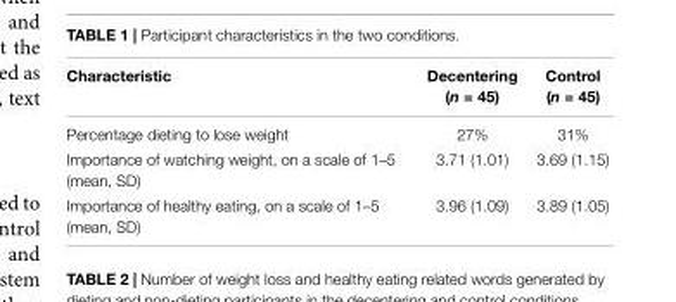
<table><thead><tr><td>Characteristic</td><td>Decentering (n = 45)</td><td>Control (n = 45)</td></tr></thead><tbody><tr><td>Percentage dieting to lose weight</td><td>27%</td><td>31%</td></tr><tr><td>Importance of watching weight, on a scale of 1–5 (mean, SD)</td><td>3.71 (1.01)</td><td>3.69 (1.15)</td></tr><tr><td>Importance of healthy eating, on a scale of 1–5 (mean, SD)</td><td>3.96 (1.09)</td><td>3.89 (1.05)</td></tr></tbody></table>